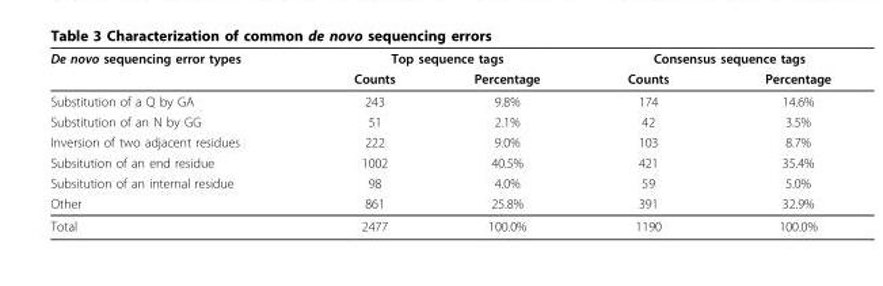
<table><thead><tr><td rowspan="2">De novo sequencing error types</td><td colspan="2">Top sequence tags</td><td colspan="2">Consensus sequence tags</td></tr><tr><td>Counts</td><td>Percentage</td><td>Counts</td><td>Percentage</td></tr></thead><tbody><tr><td>Substitution of a Q by GA</td><td>243</td><td>9.8%</td><td>174</td><td>14.6%</td></tr><tr><td>Substitution of an N by GG</td><td>51</td><td>2.1%</td><td>42</td><td>3.5%</td></tr><tr><td>Inversion of two adjacent residues</td><td>222</td><td>9.0%</td><td>103</td><td>8.7%</td></tr><tr><td>Subsitution of an end residue</td><td>1002</td><td>40.5%</td><td>421</td><td>35.4%</td></tr><tr><td>Subsitution of an internal residue</td><td>98</td><td>4.0%</td><td>59</td><td>5.0%</td></tr><tr><td>Other</td><td>861</td><td>25.8%</td><td>391</td><td>32.9%</td></tr><tr><td>Total</td><td>2477</td><td>100.0%</td><td>1190</td><td>100.0%</td></tr></tbody></table>